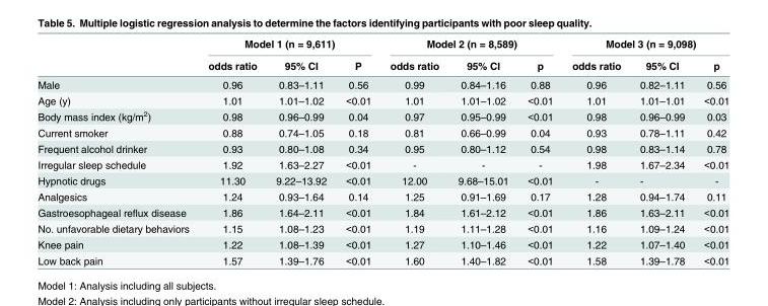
<table><thead><tr><td rowspan="2"></td><td colspan="3">Model 1 (n = 9,611)</td><td colspan="3">Model 2 (n = 8,589)</td><td colspan="3">Model 3 (n = 9,098)</td></tr><tr><td>odds ratio</td><td>95% CI</td><td>P</td><td>odds ratio</td><td>95% CI</td><td>p</td><td>odds ratio</td><td>95% CI</td><td>p</td></tr></thead><tbody><tr><td>Male</td><td>0.96</td><td>0.83–1.11</td><td>0.56</td><td>0.99</td><td>0.84–1.16</td><td>0.88</td><td>0.96</td><td>0.82–1.11</td><td>0.56</td></tr><tr><td>Age (y)</td><td>1.01</td><td>1.01–1.02</td><td>&lt;0.01</td><td>1.01</td><td>1.01–1.02</td><td>&lt;0.01</td><td>1.01</td><td>1.01–1.01</td><td>&lt;0.01</td></tr><tr><td>Body mass index (kg/m<sup>2</sup>)</td><td>0.98</td><td>0.96–0.99</td><td>0.04</td><td>0.97</td><td>0.95–0.99</td><td>&lt;0.01</td><td>0.98</td><td>0.96–0.99</td><td>0.03</td></tr><tr><td>Current smoker</td><td>0.88</td><td>0.74–1.05</td><td>0.18</td><td>0.81</td><td>0.66–0.99</td><td>0.04</td><td>0.93</td><td>0.78–1.11</td><td>0.42</td></tr><tr><td>Frequent alcohol drinker</td><td>0.93</td><td>0.80–1.08</td><td>0.34</td><td>0.95</td><td>0.80–1.12</td><td>0.54</td><td>0.98</td><td>0.83–1.14</td><td>0.78</td></tr><tr><td>Irregular sleep schedule</td><td>1.92</td><td>1.63–2.27</td><td>&lt;0.01</td><td>-</td><td>-</td><td>-</td><td>1.98</td><td>1.67–2.34</td><td>&lt;0.01</td></tr><tr><td>Hypnotic drugs</td><td>11.30</td><td>9.22–13.92</td><td>&lt;0.01</td><td>12.00</td><td>9.68–15.01</td><td>&lt;0.01</td><td>-</td><td>-</td><td>-</td></tr><tr><td>Analgesics</td><td>1.24</td><td>0.93–1.64</td><td>0.14</td><td>1.25</td><td>0.91–1.69</td><td>0.17</td><td>1.28</td><td>0.94–1.74</td><td>0.11</td></tr><tr><td>Gastroesophageal reflux disease</td><td>1.86</td><td>1.64–2.11</td><td>&lt;0.01</td><td>1.84</td><td>1.61–2.12</td><td>&lt;0.01</td><td>1.86</td><td>1.63–2.11</td><td>&lt;0.01</td></tr><tr><td>No. unfavorable dietary behaviors</td><td>1.15</td><td>1.08–1.23</td><td>&lt;0.01</td><td>1.19</td><td>1.11–1.28</td><td>&lt;0.01</td><td>1.16</td><td>1.09–1.24</td><td>&lt;0.01</td></tr><tr><td>Knee pain</td><td>1.22</td><td>1.08–1.39</td><td>&lt;0.01</td><td>1.27</td><td>1.10–1.46</td><td>&lt;0.01</td><td>1.22</td><td>1.07–1.40</td><td>&lt;0.01</td></tr><tr><td>Low back pain</td><td>1.57</td><td>1.39–1.76</td><td>&lt;0.01</td><td>1.60</td><td>1.40–1.82</td><td>&lt;0.01</td><td>1.58</td><td>1.39–1.78</td><td>&lt;0.01</td></tr></tbody></table>